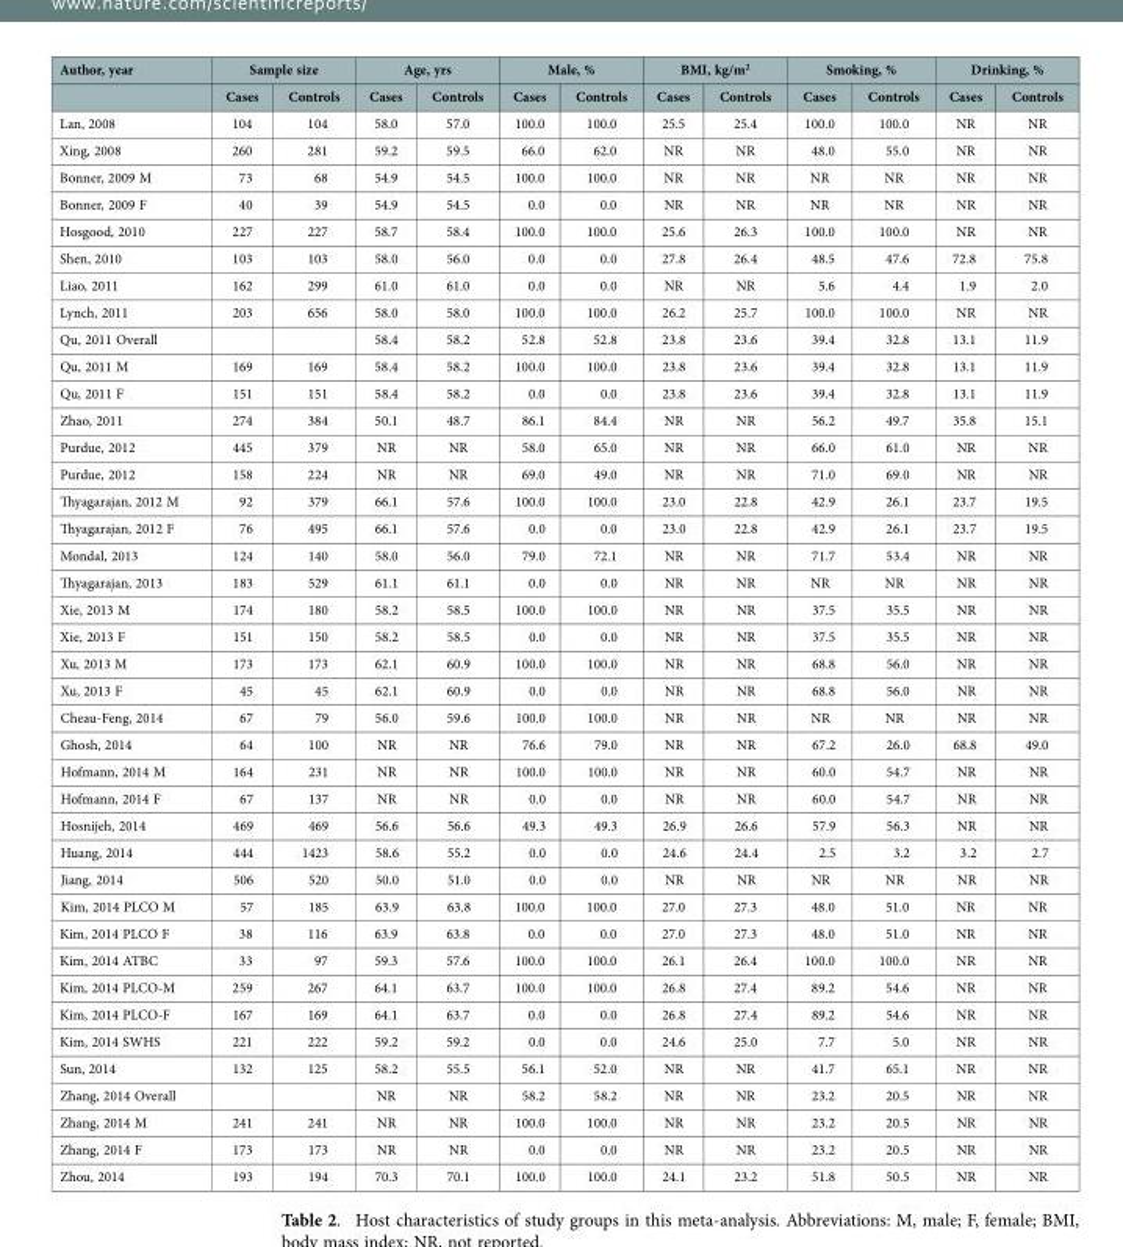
<table><thead><tr><td rowspan="2">Author, year</td><td colspan="2">Sample size</td><td colspan="2">Age, yrs</td><td colspan="2">Male, %</td><td colspan="2">BMI, kg/m<sup>2</sup></td><td colspan="2">Smoking, %</td><td colspan="2">Drinking, %</td></tr><tr><td>Cases</td><td>Controls</td><td>Cases</td><td>Controls</td><td>Cases</td><td>Controls</td><td>Cases</td><td>Controls</td><td>Cases</td><td>Controls</td><td>Cases</td><td>Controls</td></tr></thead><tbody><tr><td>Lan, 2008</td><td>104</td><td>104</td><td>58.0</td><td>57.0</td><td>100.0</td><td>100.0</td><td>25.5</td><td>25.4</td><td>100.0</td><td>100.0</td><td>NR</td><td>NR</td></tr><tr><td>Xing, 2008</td><td>260</td><td>281</td><td>59.2</td><td>59.5</td><td>66.0</td><td>62.0</td><td>NR</td><td>NR</td><td>48.0</td><td>55.0</td><td>NR</td><td>NR</td></tr><tr><td>Bonner, 2009 M</td><td>73</td><td>68</td><td>54.9</td><td>54.5</td><td>100.0</td><td>100.0</td><td>NR</td><td>NR</td><td>NR</td><td>NR</td><td>NR</td><td>NR</td></tr><tr><td>Bonner, 2009 F</td><td>40</td><td>39</td><td>54.9</td><td>54.5</td><td>0.0</td><td>0.0</td><td>NR</td><td>NR</td><td>NR</td><td>NR</td><td>NR</td><td>NR</td></tr><tr><td>Hosgood, 2010</td><td>227</td><td>227</td><td>58.7</td><td>58.4</td><td>100.0</td><td>100.0</td><td>25.6</td><td>26.3</td><td>100.0</td><td>100.0</td><td>NR</td><td>NR</td></tr><tr><td>Shen, 2010</td><td>103</td><td>103</td><td>58.0</td><td>56.0</td><td>0.0</td><td>0.0</td><td>27.8</td><td>26.4</td><td>48.5</td><td>47.6</td><td>72.8</td><td>75.8</td></tr><tr><td>Liao, 2011</td><td>162</td><td>299</td><td>61.0</td><td>61.0</td><td>0.0</td><td>0.0</td><td>NR</td><td>NR</td><td>5.6</td><td>4.4</td><td>1.9</td><td>2.0</td></tr><tr><td>Lynch, 2011</td><td>203</td><td>656</td><td>58.0</td><td>58.0</td><td>100.0</td><td>100.0</td><td>26.2</td><td>25.7</td><td>100.0</td><td>100.0</td><td>NR</td><td>NR</td></tr><tr><td>Qu, 2011 Overall</td><td></td><td></td><td>58.4</td><td>58.2</td><td>52.8</td><td>52.8</td><td>23.8</td><td>23.6</td><td>39.4</td><td>32.8</td><td>13.1</td><td>11.9</td></tr><tr><td>Qu, 2011 M</td><td>169</td><td>169</td><td>58.4</td><td>58.2</td><td>100.0</td><td>100.0</td><td>23.8</td><td>23.6</td><td>39.4</td><td>32.8</td><td>13.1</td><td>11.9</td></tr><tr><td>Qu, 2011 F</td><td>151</td><td>151</td><td>58.4</td><td>58.2</td><td>0.0</td><td>0.0</td><td>23.8</td><td>23.6</td><td>39.4</td><td>32.8</td><td>13.1</td><td>11.9</td></tr><tr><td>Zhao, 2011</td><td>274</td><td>384</td><td>50.1</td><td>48.7</td><td>86.1</td><td>84.4</td><td>NR</td><td>NR</td><td>56.2</td><td>49.7</td><td>35.8</td><td>15.1</td></tr><tr><td>Purdue, 2012</td><td>445</td><td>379</td><td>NR</td><td>NR</td><td>58.0</td><td>65.0</td><td>NR</td><td>NR</td><td>66.0</td><td>61.0</td><td>NR</td><td>NR</td></tr><tr><td>Purdue, 2012</td><td>158</td><td>224</td><td>NR</td><td>NR</td><td>69.0</td><td>49.0</td><td>NR</td><td>NR</td><td>71.0</td><td>69.0</td><td>NR</td><td>NR</td></tr><tr><td>Thyagarajan, 2012 M</td><td>92</td><td>379</td><td>66.1</td><td>57.6</td><td>100.0</td><td>100.0</td><td>23.0</td><td>22.8</td><td>42.9</td><td>26.1</td><td>23.7</td><td>19.5</td></tr><tr><td>Thyagarajan, 2012 F</td><td>76</td><td>495</td><td>66.1</td><td>57.6</td><td>0.0</td><td>0.0</td><td>23.0</td><td>22.8</td><td>42.9</td><td>26.1</td><td>23.7</td><td>19.5</td></tr><tr><td>Mondal, 2013</td><td>124</td><td>140</td><td>58.0</td><td>56.0</td><td>79.0</td><td>72.1</td><td>NR</td><td>NR</td><td>71.7</td><td>53.4</td><td>NR</td><td>NR</td></tr><tr><td>Thyagarajan, 2013</td><td>183</td><td>529</td><td>61.1</td><td>61.1</td><td>0.0</td><td>0.0</td><td>NR</td><td>NR</td><td>NR</td><td>NR</td><td>NR</td><td>NR</td></tr><tr><td>Xie, 2013 M</td><td>174</td><td>180</td><td>58.2</td><td>58.5</td><td>100.0</td><td>100.0</td><td>NR</td><td>NR</td><td>37.5</td><td>35.5</td><td>NR</td><td>NR</td></tr><tr><td>Xie, 2013 F</td><td>151</td><td>150</td><td>58.2</td><td>58.5</td><td>0.0</td><td>0.0</td><td>NR</td><td>NR</td><td>37.5</td><td>35.5</td><td>NR</td><td>NR</td></tr><tr><td>Xu, 2013 M</td><td>173</td><td>173</td><td>62.1</td><td>60.9</td><td>100.0</td><td>100.0</td><td>NR</td><td>NR</td><td>68.8</td><td>56.0</td><td>NR</td><td>NR</td></tr><tr><td>Xu, 2013 F</td><td>45</td><td>45</td><td>62.1</td><td>60.9</td><td>0.0</td><td>0.0</td><td>NR</td><td>NR</td><td>68.8</td><td>56.0</td><td>NR</td><td>NR</td></tr><tr><td>Cheau-Feng, 2014</td><td>67</td><td>79</td><td>56.0</td><td>59.6</td><td>100.0</td><td>100.0</td><td>NR</td><td>NR</td><td>NR</td><td>NR</td><td>NR</td><td>NR</td></tr><tr><td>Ghosh, 2014</td><td>64</td><td>100</td><td>NR</td><td>NR</td><td>76.6</td><td>79.0</td><td>NR</td><td>NR</td><td>67.2</td><td>26.0</td><td>68.8</td><td>49.0</td></tr><tr><td>Hofmann, 2014 M</td><td>164</td><td>231</td><td>NR</td><td>NR</td><td>100.0</td><td>100.0</td><td>NR</td><td>NR</td><td>60.0</td><td>54.7</td><td>NR</td><td>NR</td></tr><tr><td>Hofmann, 2014 F</td><td>67</td><td>137</td><td>NR</td><td>NR</td><td>0.0</td><td>0.0</td><td>NR</td><td>NR</td><td>60.0</td><td>54.7</td><td>NR</td><td>NR</td></tr><tr><td>Hosnijeh, 2014</td><td>469</td><td>469</td><td>56.6</td><td>56.6</td><td>49.3</td><td>49.3</td><td>26.9</td><td>26.6</td><td>57.9</td><td>56.3</td><td>NR</td><td>NR</td></tr><tr><td>Huang, 2014</td><td>444</td><td>1423</td><td>58.6</td><td>55.2</td><td>0.0</td><td>0.0</td><td>24.6</td><td>24.4</td><td>2.5</td><td>3.2</td><td>3.2</td><td>2.7</td></tr><tr><td>Jiang, 2014</td><td>506</td><td>520</td><td>50.0</td><td>51.0</td><td>0.0</td><td>0.0</td><td>NR</td><td>NR</td><td>NR</td><td>NR</td><td>NR</td><td>NR</td></tr><tr><td>Kim, 2014 PLCO M</td><td>57</td><td>185</td><td>63.9</td><td>63.8</td><td>100.0</td><td>100.0</td><td>27.0</td><td>27.3</td><td>48.0</td><td>51.0</td><td>NR</td><td>NR</td></tr><tr><td>Kim, 2014 PLCO F</td><td>38</td><td>116</td><td>63.9</td><td>63.8</td><td>0.0</td><td>0.0</td><td>27.0</td><td>27.3</td><td>48.0</td><td>51.0</td><td>NR</td><td>NR</td></tr><tr><td>Kim, 2014 ATBC</td><td>33</td><td>97</td><td>59.3</td><td>57.6</td><td>100.0</td><td>100.0</td><td>26.1</td><td>26.4</td><td>100.0</td><td>100.0</td><td>NR</td><td>NR</td></tr><tr><td>Kim, 2014 PLCO-M</td><td>259</td><td>267</td><td>64.1</td><td>63.7</td><td>100.0</td><td>100.0</td><td>26.8</td><td>27.4</td><td>89.2</td><td>54.6</td><td>NR</td><td>NR</td></tr><tr><td>Kim, 2014 PLCO-F</td><td>167</td><td>169</td><td>64.1</td><td>63.7</td><td>0.0</td><td>0.0</td><td>26.8</td><td>27.4</td><td>89.2</td><td>54.6</td><td>NR</td><td>NR</td></tr><tr><td>Kim, 2014 SWHS</td><td>221</td><td>222</td><td>59.2</td><td>59.2</td><td>0.0</td><td>0.0</td><td>24.6</td><td>25.0</td><td>7.7</td><td>5.0</td><td>NR</td><td>NR</td></tr><tr><td>Sun, 2014</td><td>132</td><td>125</td><td>58.2</td><td>55.5</td><td>56.1</td><td>52.0</td><td>NR</td><td>NR</td><td>41.7</td><td>65.1</td><td>NR</td><td>NR</td></tr><tr><td>Zhang, 2014 Overall</td><td></td><td></td><td>NR</td><td>NR</td><td>58.2</td><td>58.2</td><td>NR</td><td>NR</td><td>23.2</td><td>20.5</td><td>NR</td><td>NR</td></tr><tr><td>Zhang, 2014 M</td><td>241</td><td>241</td><td>NR</td><td>NR</td><td>100.0</td><td>100.0</td><td>NR</td><td>NR</td><td>23.2</td><td>20.5</td><td>NR</td><td>NR</td></tr><tr><td>Zhang, 2014 F</td><td>173</td><td>173</td><td>NR</td><td>NR</td><td>0.0</td><td>0.0</td><td>NR</td><td>NR</td><td>23.2</td><td>20.5</td><td>NR</td><td>NR</td></tr><tr><td>Zhou, 2014</td><td>193</td><td>194</td><td>70.3</td><td>70.1</td><td>100.0</td><td>100.0</td><td>24.1</td><td>23.2</td><td>51.8</td><td>50.5</td><td>NR</td><td>NR</td></tr></tbody></table>